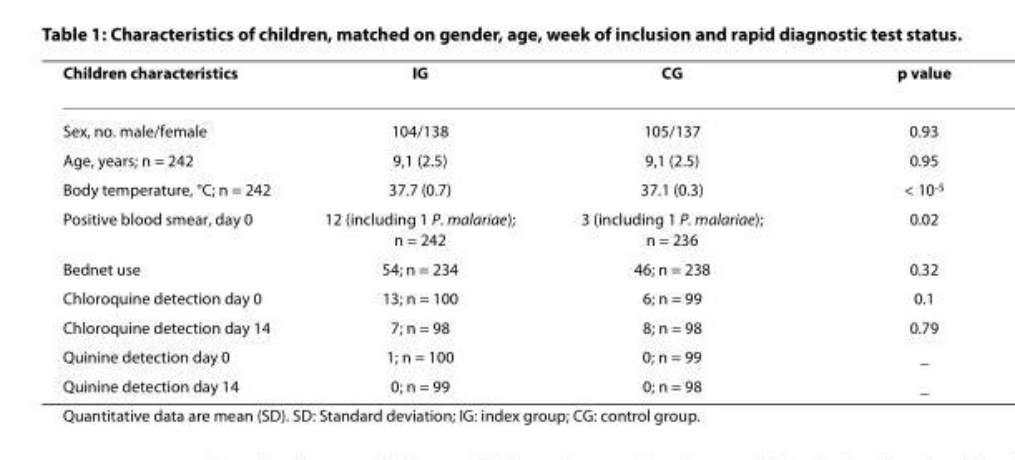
<table><thead><tr><td>Children characteristics</td><td>IG</td><td>CG</td><td>p value</td></tr></thead><tbody><tr><td>Sex, no. male/female</td><td>104/138</td><td>105/137</td><td>0.93</td></tr><tr><td>Age, years; n = 242</td><td>9,1 (2.5)</td><td>9,1 (2.5)</td><td>0.95</td></tr><tr><td>Body temperature, °C; n = 242</td><td>37.7 (0.7)</td><td>37.1 (0.3)</td><td>&lt; 10<sup>-5</sup></td></tr><tr><td>Positive blood smear, day 0</td><td>12 (including 1 P. malariae); n = 242</td><td>3 (including 1 P. malariae); n = 236</td><td>0.02</td></tr><tr><td>Bednet use</td><td>54; n = 234</td><td>46; n = 238</td><td>0.32</td></tr><tr><td>Chloroquine detection day 0</td><td>13; n = 100</td><td>6; n = 99</td><td>0.1</td></tr><tr><td>Chloroquine detection day 14</td><td>7; n = 98</td><td>8; n = 98</td><td>0.79</td></tr><tr><td>Quinine detection day 0</td><td>1; n = 100</td><td>0; n = 99</td><td>_</td></tr><tr><td>Quinine detection day 14</td><td>0; n = 99</td><td>0; n = 98</td><td>_</td></tr></tbody></table>